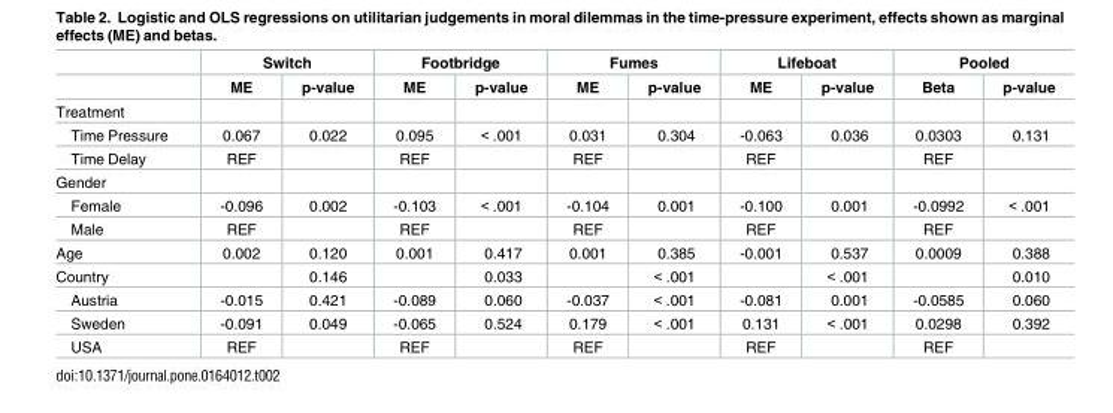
<table><thead><tr><td rowspan="2"></td><td colspan="2">Switch</td><td colspan="2">Footbridge</td><td colspan="2">Fumes</td><td colspan="2">Lifeboat</td><td colspan="2">Pooled</td></tr><tr><td>ME</td><td>p-value</td><td>ME</td><td>p-value</td><td>ME</td><td>p-value</td><td>ME</td><td>p-value</td><td>Beta</td><td>p-value</td></tr></thead><tbody><tr><td colspan="11">Treatment</td></tr><tr><td>Time Pressure</td><td>0.067</td><td>0.022</td><td>0.095</td><td>&lt; .001</td><td>0.031</td><td>0.304</td><td>-0.063</td><td>0.036</td><td>0.0303</td><td>0.131</td></tr><tr><td>Time Delay</td><td>REF</td><td></td><td>REF</td><td></td><td>REF</td><td></td><td>REF</td><td></td><td>REF</td><td></td></tr><tr><td colspan="11">Gender</td></tr><tr><td>Female</td><td>-0.096</td><td>0.002</td><td>-0.103</td><td>&lt; .001</td><td>-0.104</td><td>0.001</td><td>-0.100</td><td>0.001</td><td>-0.0992</td><td>&lt; .001</td></tr><tr><td>Male</td><td>REF</td><td></td><td>REF</td><td></td><td>REF</td><td></td><td>REF</td><td></td><td>REF</td><td></td></tr><tr><td>Age</td><td>0.002</td><td>0.120</td><td>0.001</td><td>0.417</td><td>0.001</td><td>0.385</td><td>-0.001</td><td>0.537</td><td>0.0009</td><td>0.388</td></tr><tr><td>Country</td><td></td><td>0.146</td><td></td><td>0.033</td><td></td><td>&lt; .001</td><td></td><td>&lt; .001</td><td></td><td>0.010</td></tr><tr><td>Austria</td><td>-0.015</td><td>0.421</td><td>-0.089</td><td>0.060</td><td>-0.037</td><td>&lt; .001</td><td>-0.081</td><td>0.001</td><td>-0.0585</td><td>0.060</td></tr><tr><td>Sweden</td><td>-0.091</td><td>0.049</td><td>-0.065</td><td>0.524</td><td>0.179</td><td>&lt; .001</td><td>0.131</td><td>&lt; .001</td><td>0.0298</td><td>0.392</td></tr><tr><td>USA</td><td>REF</td><td></td><td>REF</td><td></td><td>REF</td><td></td><td>REF</td><td></td><td>REF</td><td></td></tr></tbody></table>